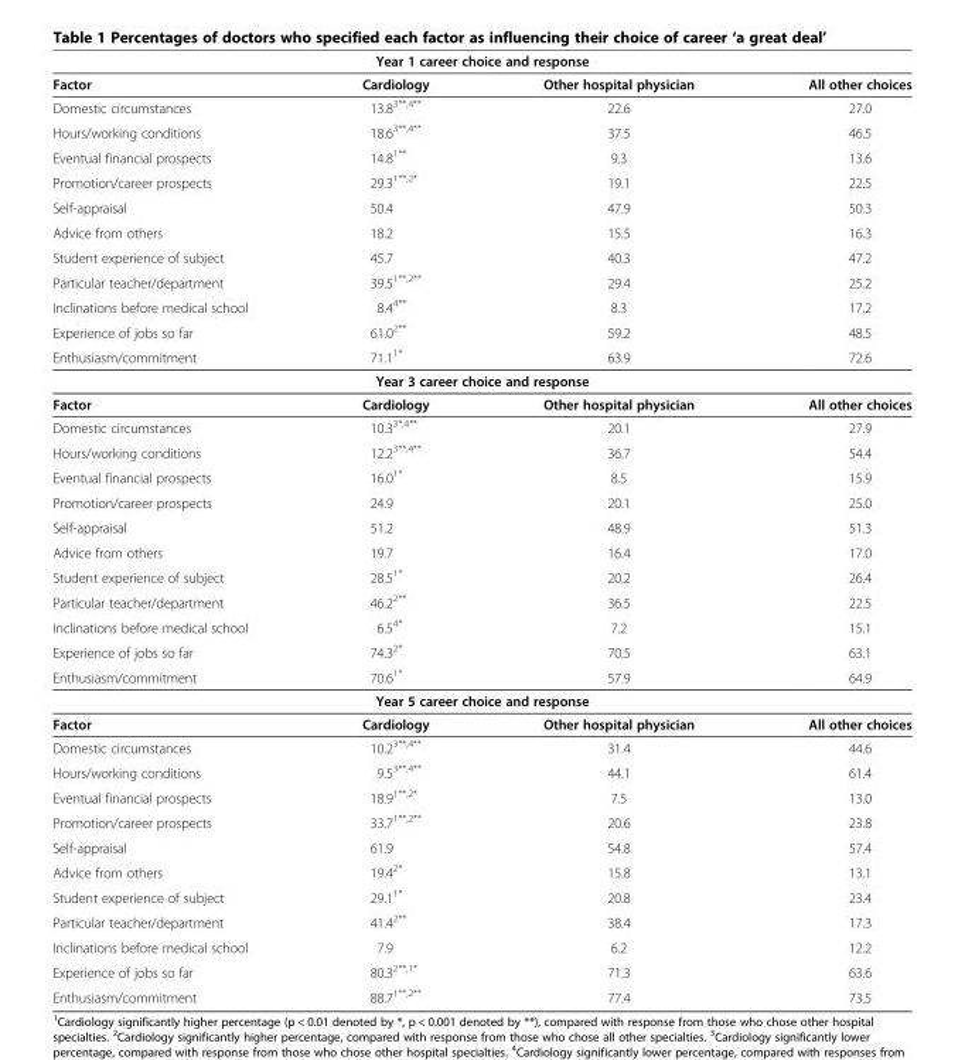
<table><thead><tr><td colspan="4">Year 1 career choice and response</td></tr><tr><td>Factor</td><td>Cardiology</td><td>Other hospital physician</td><td>All other choices</td></tr></thead><tbody><tr><td>Domestic circumstances</td><td>13.8<sup>3**,4**</sup></td><td>22.6</td><td>27.0</td></tr><tr><td>Hours/working conditions</td><td>18.6<sup>3**,4**</sup></td><td>37.5</td><td>46.5</td></tr><tr><td>Eventual financial prospects</td><td>14.8<sup>1**</sup></td><td>9.3</td><td>13.6</td></tr><tr><td>Promotion/career prospects</td><td>29.3<sup>1**,2*</sup></td><td>19.1</td><td>22.5</td></tr><tr><td>Self-appraisal</td><td>50.4</td><td>47.9</td><td>50.3</td></tr><tr><td>Advice from others</td><td>18.2</td><td>15.5</td><td>16.3</td></tr><tr><td>Student experience of subject</td><td>45.7</td><td>40.3</td><td>47.2</td></tr><tr><td>Particular teacher/department</td><td>39.5<sup>1**,2**</sup></td><td>29.4</td><td>25.2</td></tr><tr><td>Inclinations before medical school</td><td>8.4<sup>4**</sup></td><td>8.3</td><td>17.2</td></tr><tr><td>Experience of jobs so far</td><td>61.0<sup>2**</sup></td><td>59.2</td><td>48.5</td></tr><tr><td>Enthusiasm/commitment</td><td>71.1<sup>1*</sup></td><td>63.9</td><td>72.6</td></tr><tr><td colspan="4">Year 3 career choice and response</td></tr><tr><td>Factor</td><td>Cardiology</td><td>Other hospital physician</td><td>All other choices</td></tr><tr><td>Domestic circumstances</td><td>10.3<sup>3*,4**</sup></td><td>20.1</td><td>27.9</td></tr><tr><td>Hours/working conditions</td><td>12.2<sup>3**,4**</sup></td><td>36.7</td><td>54.4</td></tr><tr><td>Eventual financial prospects</td><td>16.0<sup>1*</sup></td><td>8.5</td><td>15.9</td></tr><tr><td>Promotion/career prospects</td><td>24.9</td><td>20.1</td><td>25.0</td></tr><tr><td>Self-appraisal</td><td>51.2</td><td>48.9</td><td>51.3</td></tr><tr><td>Advice from others</td><td>19.7</td><td>16.4</td><td>17.0</td></tr><tr><td>Student experience of subject</td><td>28.5<sup>1*</sup></td><td>20.2</td><td>26.4</td></tr><tr><td>Particular teacher/department</td><td>46.2<sup>2**</sup></td><td>36.5</td><td>22.5</td></tr><tr><td>Inclinations before medical school</td><td>6.5<sup>4*</sup></td><td>7.2</td><td>15.1</td></tr><tr><td>Experience of jobs so far</td><td>74.3<sup>2*</sup></td><td>70.5</td><td>63.1</td></tr><tr><td>Enthusiasm/commitment</td><td>70.6<sup>1*</sup></td><td>57.9</td><td>64.9</td></tr><tr><td colspan="4">Year 5 career choice and response</td></tr><tr><td>Factor</td><td>Cardiology</td><td>Other hospital physician</td><td>All other choices</td></tr><tr><td>Domestic circumstances</td><td>10.2<sup>3**,4**</sup></td><td>31.4</td><td>44.6</td></tr><tr><td>Hours/working conditions</td><td>9.5<sup>3**,4**</sup></td><td>44.1</td><td>61.4</td></tr><tr><td>Eventual financial prospects</td><td>18.9<sup>1**,2*</sup></td><td>7.5</td><td>13.0</td></tr><tr><td>Promotion/career prospects</td><td>33.7<sup>1**,2**</sup></td><td>20.6</td><td>23.8</td></tr><tr><td>Self-appraisal</td><td>61.9</td><td>54.8</td><td>57.4</td></tr><tr><td>Advice from others</td><td>19.4<sup>2*</sup></td><td>15.8</td><td>13.1</td></tr><tr><td>Student experience of subject</td><td>29.1<sup>1*</sup></td><td>20.8</td><td>23.4</td></tr><tr><td>Particular teacher/department</td><td>41.4<sup>2**</sup></td><td>38.4</td><td>17.3</td></tr><tr><td>Inclinations before medical school</td><td>7.9</td><td>6.2</td><td>12.2</td></tr><tr><td>Experience of jobs so far</td><td>80.3<sup>2**,1*</sup></td><td>71.3</td><td>63.6</td></tr><tr><td>Enthusiasm/commitment</td><td>88.7<sup>1**,2**</sup></td><td>77.4</td><td>73.5</td></tr></tbody></table>